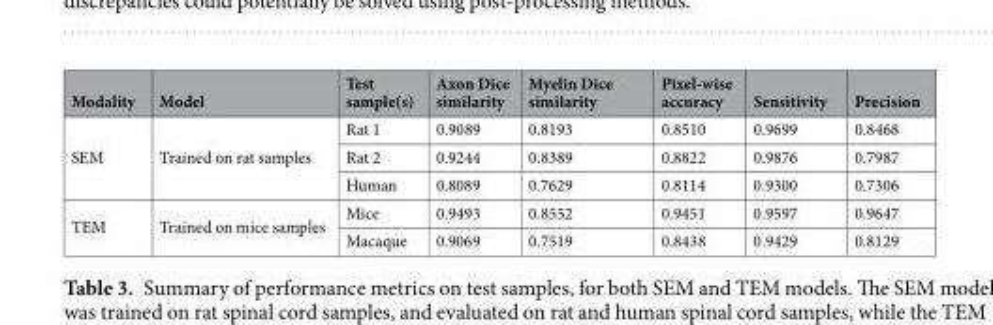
<table><thead><tr><td>Modality</td><td>Model</td><td>Test sample(s)</td><td>Axon Dice similarity</td><td>Myelin Dice similarity</td><td>Pixel-wise accuracy</td><td>Sensitivity</td><td>Precision</td></tr></thead><tbody><tr><td rowspan="3">SEM</td><td rowspan="3">Trained on rat samples</td><td>Rat 1</td><td>0.9089</td><td>0.8193</td><td>0.8510</td><td>0.9699</td><td>0.8468</td></tr><tr><td>Rat 2</td><td>0.9244</td><td>0.8389</td><td>0.8822</td><td>0.9876</td><td>0.7987</td></tr><tr><td>Human</td><td>0.8089</td><td>0.7629</td><td>0.8114</td><td>0.9300</td><td>0.7306</td></tr><tr><td rowspan="2">TEM</td><td rowspan="2">Trained on mice samples</td><td>Mice</td><td>0.9493</td><td>0.8552</td><td>0.9451</td><td>0.9597</td><td>0.9647</td></tr><tr><td>Macaque</td><td>0.9069</td><td>0.7519</td><td>0.8438</td><td>0.9429</td><td>0.8129</td></tr></tbody></table>